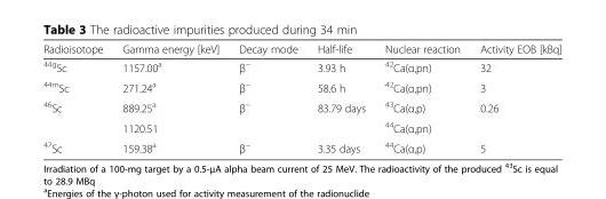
<table><thead><tr><td>Radioisotope</td><td>Gamma energy [keV]</td><td>Decay mode</td><td>Half-life</td><td>Nuclear reaction</td><td>Activity EOB [kBq]</td></tr></thead><tbody><tr><td><sup>44g</sup>Sc</td><td>1157.00<sup>a</sup></td><td>β<sup>−</sup></td><td>3.93 h</td><td><sup>42</sup>Ca(α,pn)</td><td>32</td></tr><tr><td><sup>44m</sup>Sc</td><td>271.24<sup>a</sup></td><td>β<sup>−</sup></td><td>58.6 h</td><td><sup>42</sup>Ca(α,pn)</td><td>3</td></tr><tr><td rowspan="2"><sup>46</sup>Sc</td><td>889.25<sup>a</sup></td><td rowspan="2">β<sup>−</sup></td><td rowspan="2">83.79 days</td><td><sup>43</sup>Ca(α,p)</td><td rowspan="2">0.26</td></tr><tr><td>1120.51</td><td><sup>44</sup>Ca(α,pn)</td></tr><tr><td><sup>47</sup>Sc</td><td>159.38<sup>a</sup></td><td>β<sup>−</sup></td><td>3.35 days</td><td><sup>44</sup>Ca(α,p)</td><td>5</td></tr></tbody></table>